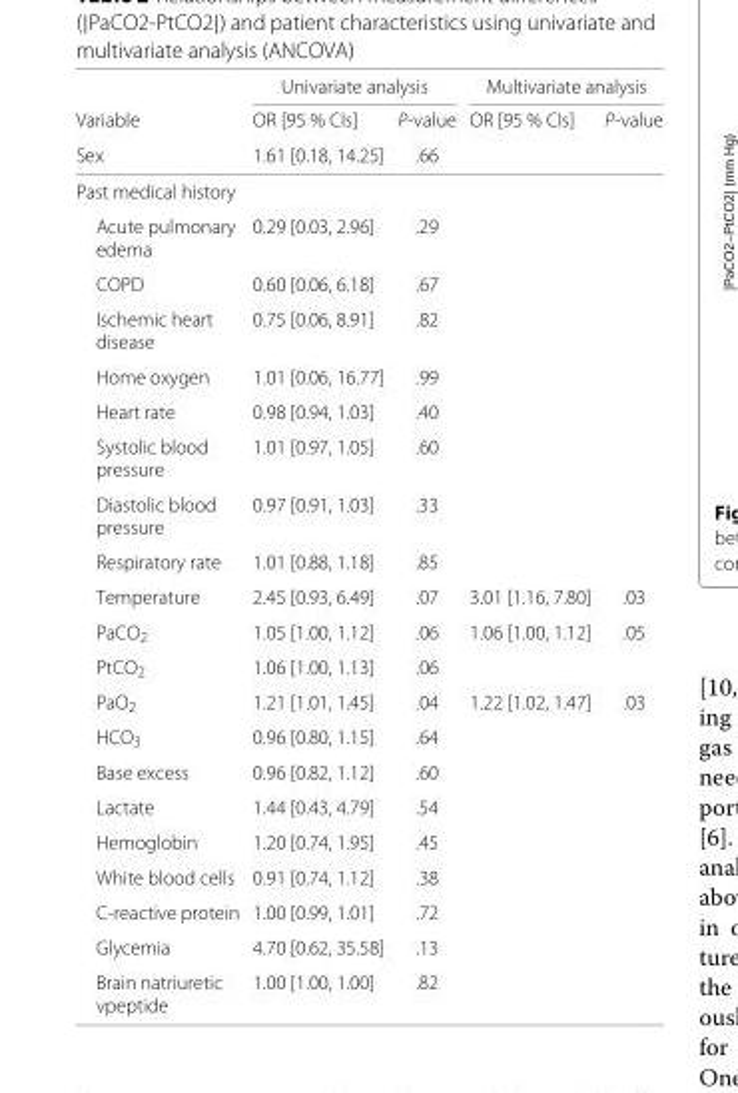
<table><thead><tr><td rowspan="3">Variable Sex</td><td colspan="2">Univariate analysis</td><td colspan="2">Multivariate analysis</td></tr><tr><td rowspan="2">OR [95 % CIs] 1.61 [0.18, 14.25]</td><td rowspan="2">P-value .66</td><td rowspan="2">OR [95 % CIs]</td><td rowspan="2">P-value</td></tr><tr></tr></thead><tbody><tr><td colspan="5">Past medical history</td></tr><tr><td>Acute pulmonary</td><td>0.29 [0.03, 2.96]</td><td>.29</td><td></td><td></td></tr><tr><td colspan="5">edema</td></tr><tr><td>COPD</td><td>0.60 [0.06, 6.18]</td><td>.67</td><td></td><td></td></tr><tr><td>Ischemic heart</td><td>0.75 [0.06, 8.91]</td><td>.82</td><td></td><td></td></tr><tr><td colspan="5">disease</td></tr><tr><td>Home oxygen</td><td>1.01 [0.06, 16.77]</td><td>.99</td><td></td><td></td></tr><tr><td>Heart rate</td><td>0.98 [0.94, 1.03]</td><td>.40</td><td></td><td></td></tr><tr><td>Systolic blood</td><td>1.01 [0.97, 1.05]</td><td>.60</td><td></td><td></td></tr><tr><td colspan="5">pressure</td></tr><tr><td>Diastolic blood</td><td>0.97 [0.91, 1.03]</td><td>.33</td><td></td><td></td></tr><tr><td colspan="5">pressure</td></tr><tr><td>Respiratory rate</td><td>1.01 [0.88, 1.18]</td><td>.85</td><td></td><td></td></tr><tr><td>Temperature</td><td>2.45 [0.93, 6.49]</td><td>.07</td><td>3.01 [1.16, 7.80]</td><td>.03</td></tr><tr><td>PaCO<sub>2</sub></td><td>1.05 [1.00, 1.12]</td><td>.06</td><td>1.06 [1.00, 1.12]</td><td>.05</td></tr><tr><td>PtCO<sub>2</sub></td><td>1.06 [1.00, 1.13]</td><td>.06</td><td></td><td></td></tr><tr><td>PaO<sub>2</sub></td><td>1.21 [1.01, 1.45]</td><td>.04</td><td>1.22 [1.02, 1.47]</td><td>.03</td></tr><tr><td>HCO<sub>3</sub></td><td>0.96 [0.80, 1.15]</td><td>.64</td><td></td><td></td></tr><tr><td>Base excess</td><td>0.96 [0.82, 1.12]</td><td>.60</td><td></td><td></td></tr><tr><td>Lactate</td><td>1.44 [0.43, 4.79]</td><td>.54</td><td></td><td></td></tr><tr><td>Hemoglobin</td><td>1.20 [0.74, 1.95]</td><td>.45</td><td></td><td></td></tr><tr><td>White blood cells</td><td>0.91 [0.74, 1.12]</td><td>.38</td><td></td><td></td></tr><tr><td>C-reactive protein</td><td>1.00 [0.99, 1.01]</td><td>.72</td><td></td><td></td></tr><tr><td>Glycemia</td><td>4.70 [0.62, 35.58]</td><td>.13</td><td></td><td></td></tr><tr><td>Brain natriuretic</td><td>1.00 [1.00, 1.00]</td><td>.82</td><td></td><td></td></tr><tr><td>vpeptide</td><td></td><td></td><td></td><td></td></tr></tbody></table>